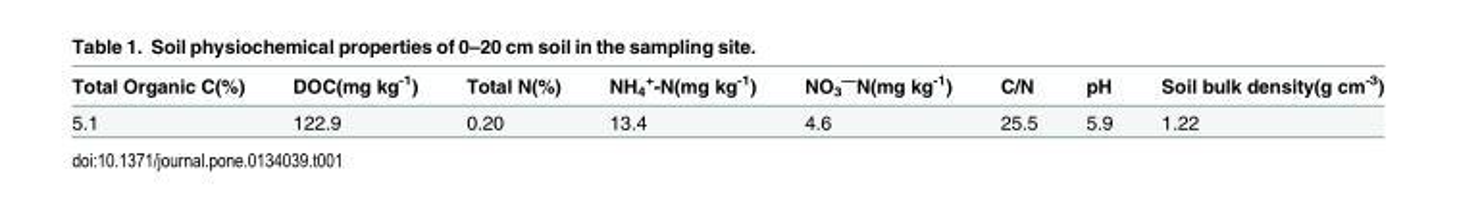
<table><thead><tr><td>Total Organic C(%)</td><td>DOC(mg kg<sup>-1</sup>)</td><td>Total N(%)</td><td>NH<sub>4</sub> <sup>+</sup>-N(mg kg<sup>-1</sup>)</td><td>NO<sub>3</sub> <sup>—</sup>N(mg kg<sup>-1</sup>)</td><td>C/N</td><td>pH</td><td>Soil bulk density(g cm<sup>-3</sup>)</td></tr></thead><tbody><tr><td>5.1</td><td>122.9</td><td>0.20</td><td>13.4</td><td>4.6</td><td>25.5</td><td>5.9</td><td>1.22</td></tr></tbody></table>